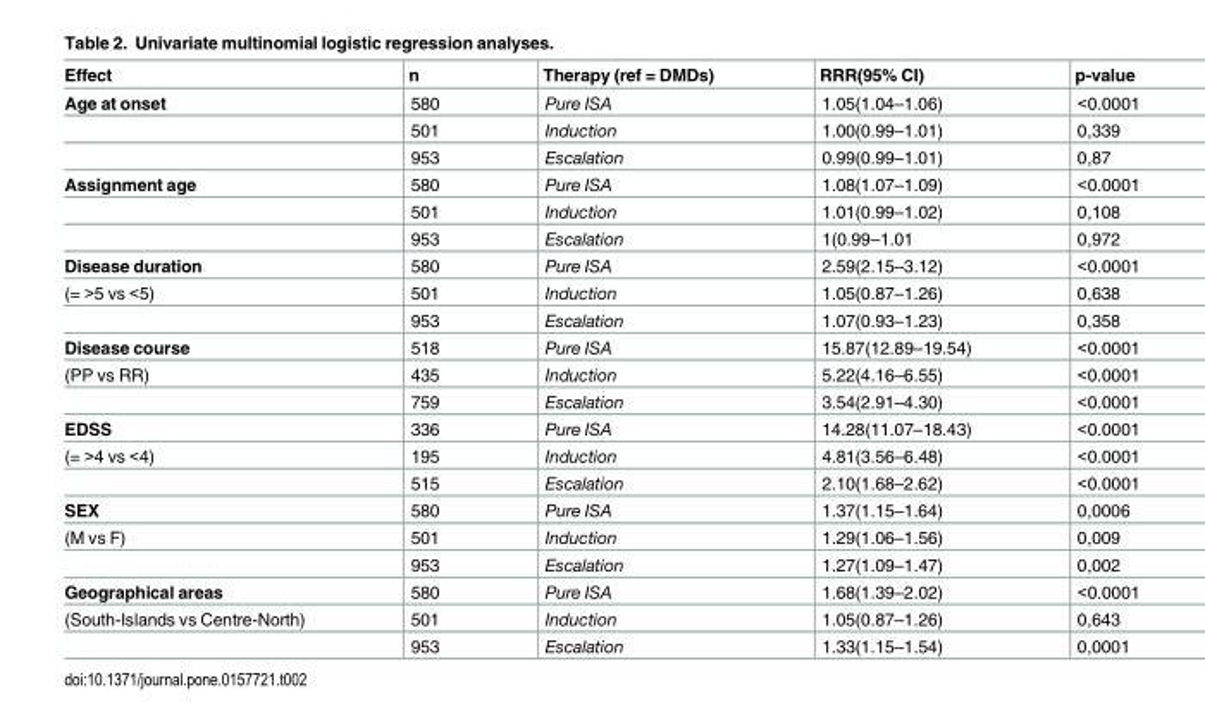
<table><thead><tr><td>Effect</td><td>n</td><td>Therapy (ref = DMDs)</td><td>RRR(95% CI)</td><td>p-value</td></tr></thead><tbody><tr><td rowspan="3">Age at onset</td><td>580</td><td>Pure ISA</td><td>1.05(1.04–1.06)</td><td>&lt;0.0001</td></tr><tr><td>501</td><td>Induction</td><td>1.00(0.99–1.01)</td><td>0,339</td></tr><tr><td>953</td><td>Escalation</td><td>0.99(0.99–1.01)</td><td>0,87</td></tr><tr><td rowspan="3">Assignment age</td><td>580</td><td>Pure ISA</td><td>1.08(1.07–1.09)</td><td>&lt;0.0001</td></tr><tr><td>501</td><td>Induction</td><td>1.01(0.99–1.02)</td><td>0,108</td></tr><tr><td>953</td><td>Escalation</td><td>1(0.99–1.01</td><td>0,972</td></tr><tr><td>Disease duration</td><td>580</td><td>Pure ISA</td><td>2.59(2.15–3.12)</td><td>&lt;0.0001</td></tr><tr><td rowspan="2">(= &gt;5 vs &lt;5)</td><td>501</td><td>Induction</td><td>1.05(0.87–1.26)</td><td>0,638</td></tr><tr><td>953</td><td>Escalation</td><td>1.07(0.93–1.23)</td><td>0,358</td></tr><tr><td>Disease course</td><td>518</td><td>Pure ISA</td><td>15.87(12.89–19.54)</td><td>&lt;0.0001</td></tr><tr><td rowspan="2">(PP vs RR)</td><td>435</td><td>Induction</td><td>5.22(4.16–6.55)</td><td>&lt;0.0001</td></tr><tr><td>759</td><td>Escalation</td><td>3.54(2.91–4.30)</td><td>&lt;0.0001</td></tr><tr><td>EDSS</td><td>336</td><td>Pure ISA</td><td>14.28(11.07–18.43)</td><td>&lt;0.0001</td></tr><tr><td rowspan="2">(= &gt;4 vs &lt;4)</td><td>195</td><td>Induction</td><td>4.81(3.56–6.48)</td><td>&lt;0.0001</td></tr><tr><td>515</td><td>Escalation</td><td>2.10(1.68–2.62)</td><td>&lt;0.0001</td></tr><tr><td>SEX</td><td>580</td><td>Pure ISA</td><td>1.37(1.15–1.64)</td><td>0,0006</td></tr><tr><td rowspan="2">(M vs F)</td><td>501</td><td>Induction</td><td>1.29(1.06–1.56)</td><td>0,009</td></tr><tr><td>953</td><td>Escalation</td><td>1.27(1.09–1.47)</td><td>0,002</td></tr><tr><td>Geographical areas</td><td>580</td><td>Pure ISA</td><td>1.68(1.39–2.02)</td><td>&lt;0.0001</td></tr><tr><td rowspan="2">(South-Islands vs Centre-North)</td><td>501</td><td>Induction</td><td>1.05(0.87–1.26)</td><td>0,643</td></tr><tr><td>953</td><td>Escalation</td><td>1.33(1.15–1.54)</td><td>0,0001</td></tr></tbody></table>